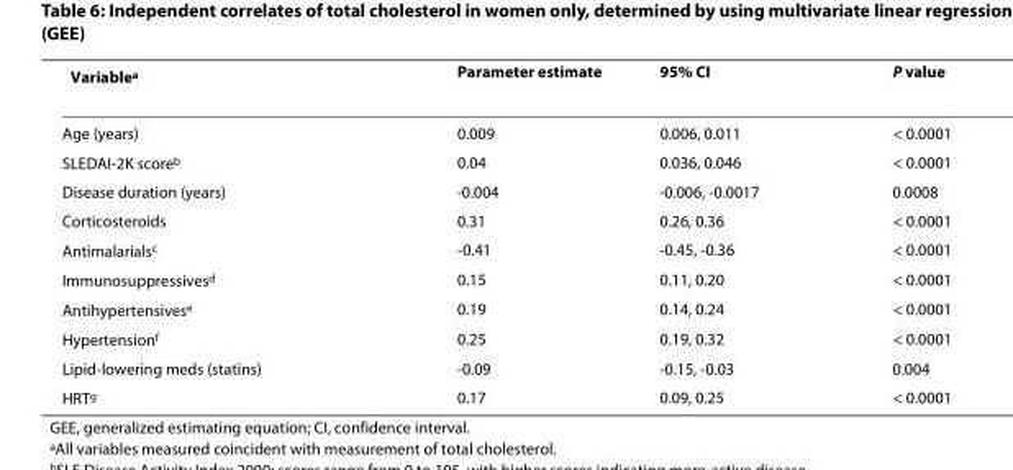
<table><thead><tr><td>Variable<sup>a</sup></td><td>Parameter estimate</td><td>95% CI</td><td>P value</td></tr></thead><tbody><tr><td>Age (years)</td><td>0.009</td><td>0.006, 0.011</td><td>&lt; 0.0001</td></tr><tr><td>SLEDAI-2K score<sup>b</sup></td><td>0.04</td><td>0.036, 0.046</td><td>&lt; 0.0001</td></tr><tr><td>Disease duration (years)</td><td>-0.004</td><td>-0.006, -0.0017</td><td>0.0008</td></tr><tr><td>Corticosteroids</td><td>0.31</td><td>0.26, 0.36</td><td>&lt; 0.0001</td></tr><tr><td>Antimalarials<sup>c</sup></td><td>-0.41</td><td>-0.45, -0.36</td><td>&lt; 0.0001</td></tr><tr><td>Immunosuppressives<sup>d</sup></td><td>0.15</td><td>0.11, 0.20</td><td>&lt; 0.0001</td></tr><tr><td>Antihypertensives<sup>e</sup></td><td>0.19</td><td>0.14, 0.24</td><td>&lt; 0.0001</td></tr><tr><td>Hypertension<sup>f</sup></td><td>0.25</td><td>0.19, 0.32</td><td>&lt; 0.0001</td></tr><tr><td>Lipid-lowering meds (statins)</td><td>-0.09</td><td>-0.15, -0.03</td><td>0.004</td></tr><tr><td>HRT<sup>g</sup></td><td>0.17</td><td>0.09, 0.25</td><td>&lt; 0.0001</td></tr></tbody></table>